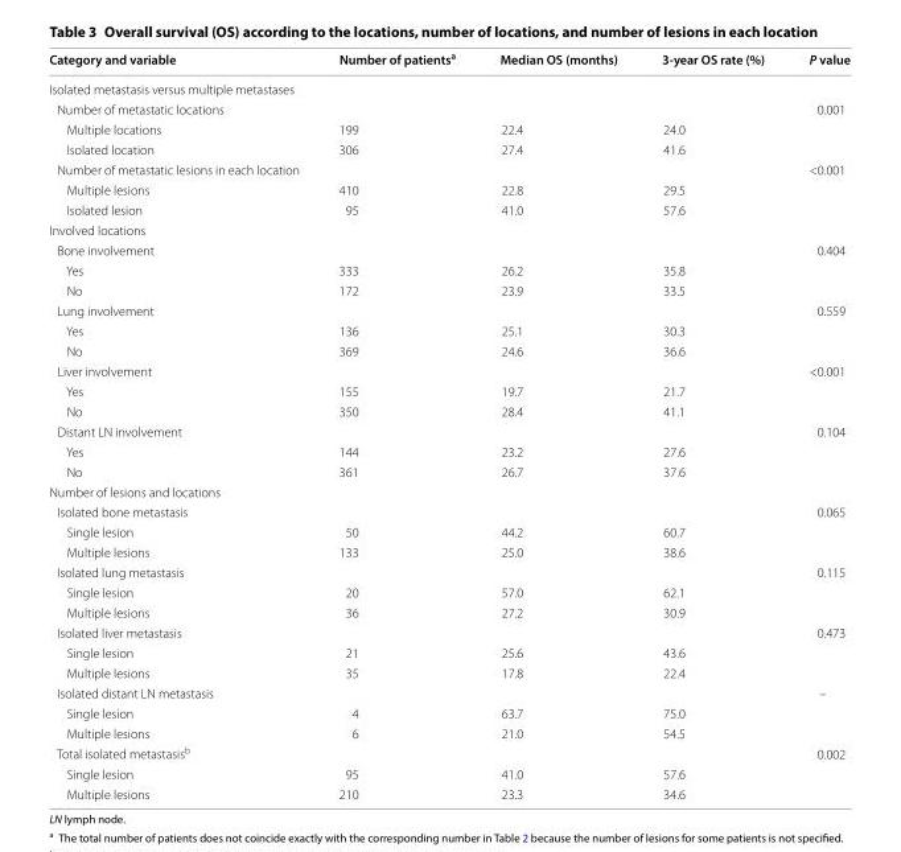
<table><thead><tr><td>Category and variable</td><td>Number of patients<sup>a</sup></td><td>Median OS (months)</td><td>3‑year OS rate (%)</td><td>P value</td></tr></thead><tbody><tr><td colspan="5">Isolated metastasis versus multiple metastases</td></tr><tr><td>Number of metastatic locations</td><td></td><td></td><td></td><td>0.001</td></tr><tr><td>Multiple locations</td><td>199</td><td>22.4</td><td>24.0</td><td></td></tr><tr><td>Isolated location</td><td>306</td><td>27.4</td><td>41.6</td><td></td></tr><tr><td>Number of metastatic lesions in each location</td><td></td><td></td><td></td><td>&lt;0.001</td></tr><tr><td>Multiple lesions</td><td>410</td><td>22.8</td><td>29.5</td><td></td></tr><tr><td>Isolated lesion</td><td>95</td><td>41.0</td><td>57.6</td><td></td></tr><tr><td colspan="5">Involved locations</td></tr><tr><td>Bone involvement</td><td></td><td></td><td></td><td>0.404</td></tr><tr><td>Yes</td><td>333</td><td>26.2</td><td>35.8</td><td></td></tr><tr><td>No</td><td>172</td><td>23.9</td><td>33.5</td><td></td></tr><tr><td>Lung involvement</td><td></td><td></td><td></td><td>0.559</td></tr><tr><td>Yes</td><td>136</td><td>25.1</td><td>30.3</td><td></td></tr><tr><td>No</td><td>369</td><td>24.6</td><td>36.6</td><td></td></tr><tr><td>Liver involvement</td><td></td><td></td><td></td><td>&lt;0.001</td></tr><tr><td>Yes</td><td>155</td><td>19.7</td><td>21.7</td><td></td></tr><tr><td>No</td><td>350</td><td>28.4</td><td>41.1</td><td></td></tr><tr><td>Distant LN involvement</td><td></td><td></td><td></td><td>0.104</td></tr><tr><td>Yes</td><td>144</td><td>23.2</td><td>27.6</td><td></td></tr><tr><td>No</td><td>361</td><td>26.7</td><td>37.6</td><td></td></tr><tr><td colspan="5">Number of lesions and locations</td></tr><tr><td>Isolated bone metastasis</td><td></td><td></td><td></td><td>0.065</td></tr><tr><td>Single lesion</td><td>50</td><td>44.2</td><td>60.7</td><td></td></tr><tr><td>Multiple lesions</td><td>133</td><td>25.0</td><td>38.6</td><td></td></tr><tr><td>Isolated lung metastasis</td><td></td><td></td><td></td><td>0.115</td></tr><tr><td>Single lesion</td><td>20</td><td>57.0</td><td>62.1</td><td></td></tr><tr><td>Multiple lesions</td><td>36</td><td>27.2</td><td>30.9</td><td></td></tr><tr><td>Isolated liver metastasis</td><td></td><td></td><td></td><td>0.473</td></tr><tr><td>Single lesion</td><td>21</td><td>25.6</td><td>43.6</td><td></td></tr><tr><td>Multiple lesions</td><td>35</td><td>17.8</td><td>22.4</td><td></td></tr><tr><td>Isolated distant LN metastasis</td><td></td><td></td><td></td><td>–</td></tr><tr><td>Single lesion</td><td>4</td><td>63.7</td><td>75.0</td><td></td></tr><tr><td>Multiple lesions</td><td>6</td><td>21.0</td><td>54.5</td><td></td></tr><tr><td>Total isolated metastasis<sup>b</sup></td><td></td><td></td><td></td><td>0.002</td></tr><tr><td>Single lesion</td><td>95</td><td>41.0</td><td>57.6</td><td></td></tr><tr><td>Multiple lesions</td><td>210</td><td>23.3</td><td>34.6</td><td></td></tr></tbody></table>